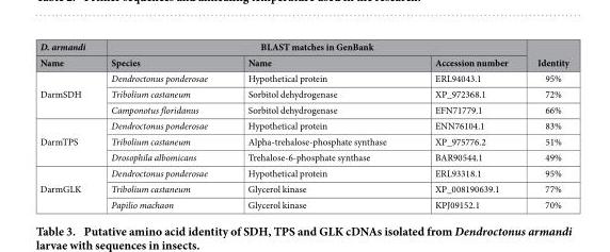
<table><thead><tr><td rowspan="2">D. armandi Name</td><td colspan="3">BLAST matches in GenBank</td><td rowspan="2">Identity</td></tr><tr><td>Species</td><td>Name</td><td>Accession number</td></tr></thead><tbody><tr><td rowspan="3">DarmSDH</td><td>Dendroctonus ponderosae</td><td>Hypothetical protein</td><td>ERL94043.1</td><td>95%</td></tr><tr><td>Tribolium castaneum</td><td>Sorbitol dehydrogenase</td><td>XP_972368.1</td><td>72%</td></tr><tr><td>Camponotus floridanus</td><td>Sorbitol dehydrogenase</td><td>EFN71779.1</td><td>66%</td></tr><tr><td rowspan="3">DarmTPS</td><td>Dendroctonus ponderosae</td><td>Hypothetical protein</td><td>ENN76104.1</td><td>83%</td></tr><tr><td>Tribolium castaneum</td><td>Alpha-trehalose-phosphate synthase</td><td>XP_975776.2</td><td>51%</td></tr><tr><td>Drosophila albomicans</td><td>Trehalose-6-phosphate synthase</td><td>BAR90544.1</td><td>49%</td></tr><tr><td rowspan="3">DarmGLK</td><td>Dendroctonus ponderosae</td><td>Hypothetical protein</td><td>ERL93318.1</td><td>95%</td></tr><tr><td>Tribolium castaneum</td><td>Glycerol kinase</td><td>XP_008190639.1</td><td>77%</td></tr><tr><td>Papilio machaon</td><td>Glycerol kinase</td><td>KPJ09152.1</td><td>70%</td></tr></tbody></table>